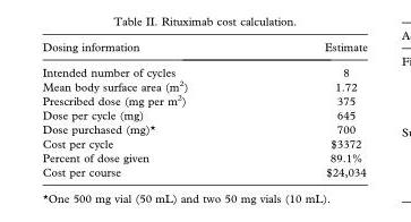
<table><thead><tr><td>Dosing information</td><td>Estimate</td></tr></thead><tbody><tr><td>Intended number of cycles</td><td>8</td></tr><tr><td>Mean body surface area (m<sup>2</sup>)</td><td>1.72</td></tr><tr><td>Prescribed dose (mg per m<sup>2</sup>)</td><td>375</td></tr><tr><td>Dose per cycle (mg)</td><td>645</td></tr><tr><td>Dose purchased (mg)*</td><td>700</td></tr><tr><td>Cost per cycle</td><td>$3372</td></tr><tr><td>Percent of dose given</td><td>89.1%</td></tr><tr><td>Cost per course</td><td>$24,034</td></tr></tbody></table>